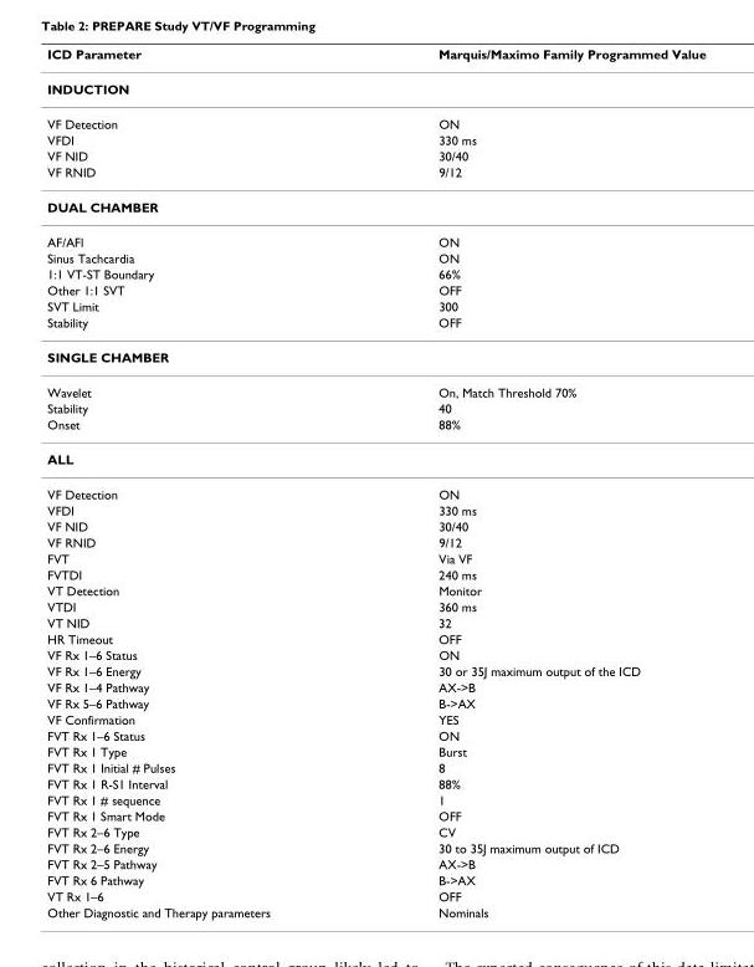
<table><thead><tr><td>ICD Parameter</td><td>Marquis/Maximo Family Programmed Value</td></tr></thead><tbody><tr><td colspan="2">INDUCTION</td></tr><tr><td>VF Detection</td><td>ON</td></tr><tr><td>VFDI</td><td>330 ms</td></tr><tr><td>VF NID</td><td>30/40</td></tr><tr><td>VF RNID</td><td>9/12</td></tr><tr><td colspan="2">DUAL CHAMBER</td></tr><tr><td>AF/AFl</td><td>ON</td></tr><tr><td>Sinus Tachcardia</td><td>ON</td></tr><tr><td>1:1 VT-ST Boundary</td><td>66%</td></tr><tr><td>Other 1:1 SVT</td><td>OFF</td></tr><tr><td>SVT Limit</td><td>300</td></tr><tr><td>Stability</td><td>OFF</td></tr><tr><td colspan="2">SINGLE CHAMBER</td></tr><tr><td>Wavelet</td><td>On, Match Threshold 70%</td></tr><tr><td>Stability</td><td>40</td></tr><tr><td>Onset</td><td>88%</td></tr><tr><td colspan="2">ALL</td></tr><tr><td>VF Detection</td><td>ON</td></tr><tr><td>VFDI</td><td>330 ms</td></tr><tr><td>VF NID</td><td>30/40</td></tr><tr><td>VF RNID</td><td>9/12</td></tr><tr><td>FVT</td><td>Via VF</td></tr><tr><td>FVTDI</td><td>240 ms</td></tr><tr><td>VT Detection</td><td>Monitor</td></tr><tr><td>VTDI</td><td>360 ms</td></tr><tr><td>VT NID</td><td>32</td></tr><tr><td>HR Timeout</td><td>OFF</td></tr><tr><td>VF Rx 1–6 Status</td><td>ON</td></tr><tr><td>VF Rx 1–6 Energy</td><td>30 or 35J maximum output of the ICD</td></tr><tr><td>VF Rx 1–4 Pathway</td><td>AX-&gt;B</td></tr><tr><td>VF Rx 5–6 Pathway</td><td>B-&gt;AX</td></tr><tr><td>VF Confirmation</td><td>YES</td></tr><tr><td>FVT Rx 1–6 Status</td><td>ON</td></tr><tr><td>FVT Rx 1 Type</td><td>Burst</td></tr><tr><td>FVT Rx 1 Initial # Pulses</td><td>8</td></tr><tr><td>FVT Rx 1 R-S1 Interval</td><td>88%</td></tr><tr><td>FVT Rx 1 # sequence</td><td>1</td></tr><tr><td>FVT Rx 1 Smart Mode</td><td>OFF</td></tr><tr><td>FVT Rx 2–6 Type</td><td>CV</td></tr><tr><td>FVT Rx 2–6 Energy</td><td>30 to 35J maximum output of ICD</td></tr><tr><td>FVT Rx 2–5 Pathway</td><td>AX-&gt;B</td></tr><tr><td>FVT Rx 6 Pathway</td><td>B-&gt;AX</td></tr><tr><td>VT Rx 1–6</td><td>OFF</td></tr><tr><td>Other Diagnostic and Therapy parameters</td><td>Nominals</td></tr></tbody></table>